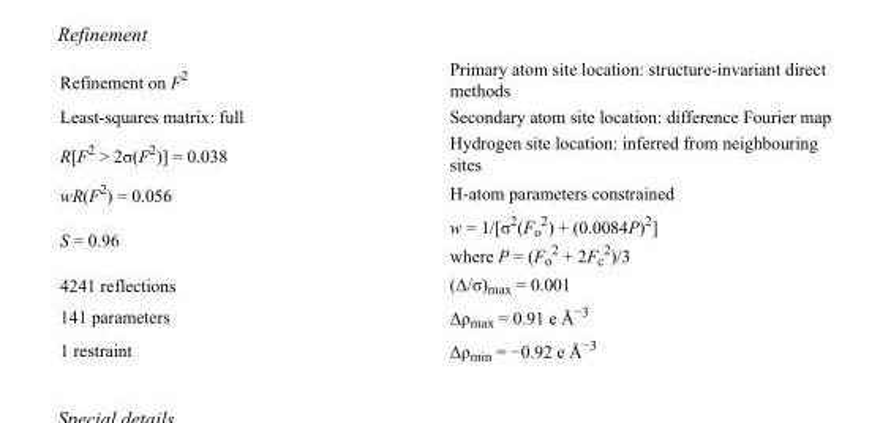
<table><tbody><tr><td>Refinement on F<sup>2</sup></td><td>Primary atom site location: structure-invariant direct methods</td></tr><tr><td>Least-squares matrix: full</td><td>Secondary atom site location: difference Fourier map</td></tr><tr><td>R[F<sup>2</sup> &gt; 2σ(F<sup>2</sup>)] = 0.038</td><td>Hydrogen site location: inferred from neighbouring sites</td></tr><tr><td>wR(F<sup>2</sup>) = 0.056</td><td>H-atom parameters constrained</td></tr><tr><td>S = 0.96</td><td>w = 1/[σ<sup>2</sup>(F<sub>o</sub> <sup>2</sup>) + (0.0084P)<sup>2</sup>] where P = (F<sub>o</sub> <sup>2</sup> + 2F<sub>c</sub> <sup>2</sup>)/3</td></tr><tr><td>4241 reflections</td><td>(Δ/σ)<sub>max</sub> = 0.001</td></tr><tr><td>141 parameters</td><td>Δρ<sub>max</sub> = 0.91 e Å<sup>−3</sup></td></tr><tr><td>1 restraint</td><td>Δρ<sub>min</sub> = −0.92 e Å<sup>−3</sup></td></tr></tbody></table>